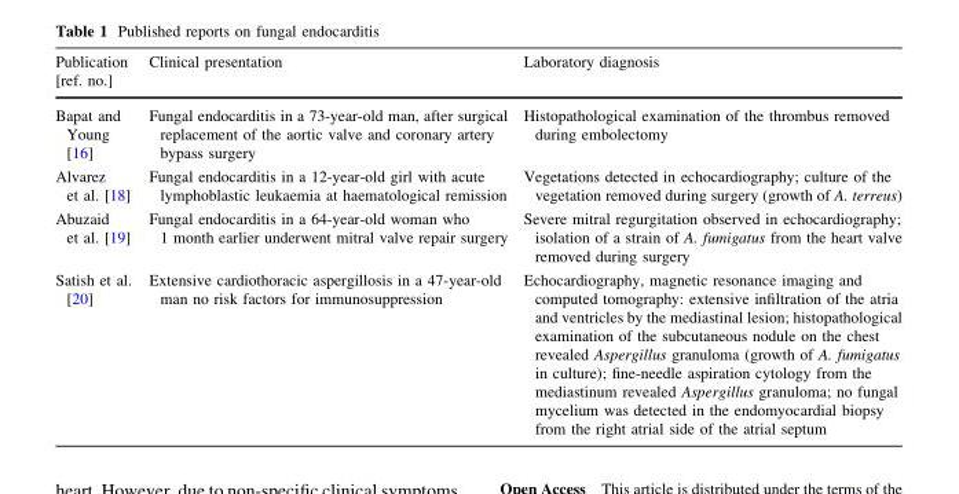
<table><thead><tr><td>Publication [ref. no.]</td><td>Clinical presentation</td><td>Laboratory diagnosis</td></tr></thead><tbody><tr><td>Bapat and Young [16]</td><td>Fungal endocarditis in a 73-year-old man, after surgical replacement of the aortic valve and coronary artery bypass surgery</td><td>Histopathological examination of the thrombus removed during embolectomy</td></tr><tr><td>Alvarez et al. [18]</td><td>Fungal endocarditis in a 12-year-old girl with acute lymphoblastic leukaemia at haematological remission</td><td>Vegetations detected in echocardiography; culture of the vegetation removed during surgery (growth of A. terreus)</td></tr><tr><td>Abuzaid et al. [19]</td><td>Fungal endocarditis in a 64-year-old woman who 1 month earlier underwent mitral valve repair surgery</td><td>Severe mitral regurgitation observed in echocardiography; isolation of a strain of A. fumigatus from the heart valve removed during surgery</td></tr><tr><td>Satish et al. [20]</td><td>Extensive cardiothoracic aspergillosis in a 47-year-old man no risk factors for immunosuppression</td><td>Echocardiography, magnetic resonance imaging and computed tomography: extensive infiltration of the atria and ventricles by the mediastinal lesion; histopathological examination of the subcutaneous nodule on the chest revealed Aspergillus granuloma (growth of A. fumigatus in culture); fine-needle aspiration cytology from the mediastinum revealed Aspergillus granuloma; no fungal mycelium was detected in the endomyocardial biopsy from the right atrial side of the atrial septum</td></tr></tbody></table>